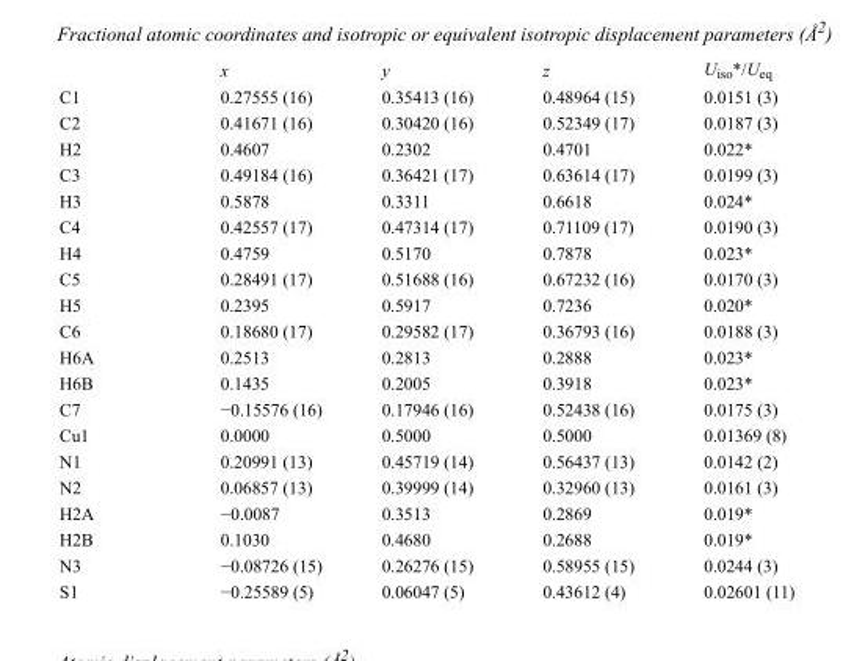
<table><thead><tr><td></td><td>x</td><td>y</td><td>z</td><td>U<sub>iso</sub>*/U<sub>eq</sub></td></tr></thead><tbody><tr><td>C1</td><td>0.27555 (16)</td><td>0.35413 (16)</td><td>0.48964 (15)</td><td>0.0151 (3)</td></tr><tr><td>C2</td><td>0.41671 (16)</td><td>0.30420 (16)</td><td>0.52349 (17)</td><td>0.0187 (3)</td></tr><tr><td>H2</td><td>0.4607</td><td>0.2302</td><td>0.4701</td><td>0.022*</td></tr><tr><td>C3</td><td>0.49184 (16)</td><td>0.36421 (17)</td><td>0.63614 (17)</td><td>0.0199 (3)</td></tr><tr><td>H3</td><td>0.5878</td><td>0.3311</td><td>0.6618</td><td>0.024*</td></tr><tr><td>C4</td><td>0.42557 (17)</td><td>0.47314 (17)</td><td>0.71109 (17)</td><td>0.0190 (3)</td></tr><tr><td>H4</td><td>0.4759</td><td>0.5170</td><td>0.7878</td><td>0.023*</td></tr><tr><td>C5</td><td>0.28491 (17)</td><td>0.51688 (16)</td><td>0.67232 (16)</td><td>0.0170 (3)</td></tr><tr><td>H5</td><td>0.2395</td><td>0.5917</td><td>0.7236</td><td>0.020*</td></tr><tr><td>C6</td><td>0.18680 (17)</td><td>0.29582 (17)</td><td>0.36793 (16)</td><td>0.0188 (3)</td></tr><tr><td>H6A</td><td>0.2513</td><td>0.2813</td><td>0.2888</td><td>0.023*</td></tr><tr><td>H6B</td><td>0.1435</td><td>0.2005</td><td>0.3918</td><td>0.023*</td></tr><tr><td>C7</td><td>−0.15576 (16)</td><td>0.17946 (16)</td><td>0.52438 (16)</td><td>0.0175 (3)</td></tr><tr><td>Cu1</td><td>0.0000</td><td>0.5000</td><td>0.5000</td><td>0.01369 (8)</td></tr><tr><td>N1</td><td>0.20991 (13)</td><td>0.45719 (14)</td><td>0.56437 (13)</td><td>0.0142 (2)</td></tr><tr><td>N2</td><td>0.06857 (13)</td><td>0.39999 (14)</td><td>0.32960 (13)</td><td>0.0161 (3)</td></tr><tr><td>H2A</td><td>−0.0087</td><td>0.3513</td><td>0.2869</td><td>0.019*</td></tr><tr><td>H2B</td><td>0.1030</td><td>0.4680</td><td>0.2688</td><td>0.019*</td></tr><tr><td>N3</td><td>−0.08726 (15)</td><td>0.26276 (15)</td><td>0.58955 (15)</td><td>0.0244 (3)</td></tr><tr><td>S1</td><td>−0.25589 (5)</td><td>0.06047 (5)</td><td>0.43612 (4)</td><td>0.02601 (11)</td></tr></tbody></table>